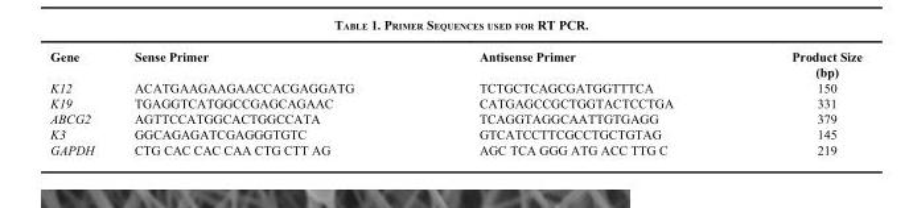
<table><thead><tr><td>Gene</td><td>Sense Primer</td><td>Antisense Primer</td><td>Product Size (bp)</td></tr></thead><tbody><tr><td>K12</td><td>ACATGAAGAAGAACCACGAGGATG</td><td>TCTGCTCAGCGATGGTTTCA</td><td>150</td></tr><tr><td>K19</td><td>TGAGGTCATGGCCGAGCAGAAC</td><td>CATGAGCCGCTGGTACTCCTGA</td><td>331</td></tr><tr><td>ABCG2</td><td>AGTTCCATGGCACTGGCCATA</td><td>TCAGGTAGGCAATTGTGAGG</td><td>379</td></tr><tr><td>K3</td><td>GGCAGAGATCGAGGGTGTC</td><td>GTCATCCTTCGCCTGCTGTAG</td><td>145</td></tr><tr><td>GAPDH</td><td>CTG CAC CAC CAA CTG CTT AG</td><td>AGC TCA GGG ATG ACC TTG C</td><td>219</td></tr></tbody></table>